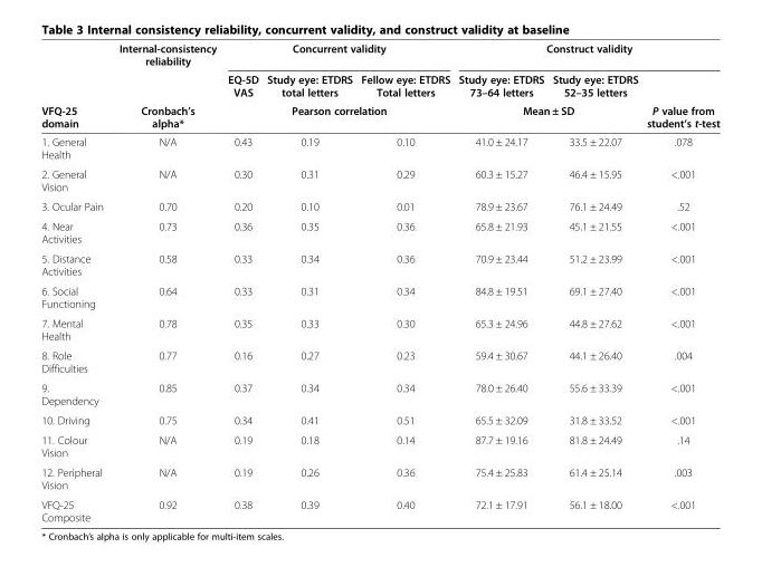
<table><thead><tr><td rowspan="3">VFQ-25 domain</td><td rowspan="3">Internal-consistency reliability Cronbach’s alpha*</td><td colspan="3">Concurrent validity</td><td colspan="3">Construct validity</td></tr><tr><td>EQ-5D VAS</td><td>Study eye: ETDRS total letters</td><td>Fellow eye: ETDRS Total letters</td><td>Study eye: ETDRS 73–64 letters</td><td>Study eye: ETDRS 52–35 letters</td><td rowspan="2">P value from student’s t-test</td></tr><tr><td colspan="3">Pearson correlation</td><td colspan="2">Mean ± SD</td></tr></thead><tbody><tr><td>1. General Health</td><td>N/A</td><td>0.43</td><td>0.19</td><td>0.10</td><td>41.0 ± 24.17</td><td>33.5 ± 22.07</td><td>.078</td></tr><tr><td>2. General Vision</td><td>N/A</td><td>0.30</td><td>0.31</td><td>0.29</td><td>60.3 ± 15.27</td><td>46.4 ± 15.95</td><td>&lt;.001</td></tr><tr><td>3. Ocular Pain</td><td>0.70</td><td>0.20</td><td>0.10</td><td>0.01</td><td>78.9 ± 23.67</td><td>76.1 ± 24.49</td><td>.52</td></tr><tr><td>4. Near Activities</td><td>0.73</td><td>0.36</td><td>0.35</td><td>0.36</td><td>65.8 ± 21.93</td><td>45.1 ± 21.55</td><td>&lt;.001</td></tr><tr><td>5. Distance Activities</td><td>0.58</td><td>0.33</td><td>0.34</td><td>0.36</td><td>70.9 ± 23.44</td><td>51.2 ± 23.99</td><td>&lt;.001</td></tr><tr><td>6. Social Functioning</td><td>0.64</td><td>0.33</td><td>0.31</td><td>0.34</td><td>84.8 ± 19.51</td><td>69.1 ± 27.40</td><td>&lt;.001</td></tr><tr><td>7. Mental Health</td><td>0.78</td><td>0.35</td><td>0.33</td><td>0.30</td><td>65.3 ± 24.96</td><td>44.8 ± 27.62</td><td>&lt;.001</td></tr><tr><td>8. Role Difficulties</td><td>0.77</td><td>0.16</td><td>0.27</td><td>0.23</td><td>59.4 ± 30.67</td><td>44.1 ± 26.40</td><td>.004</td></tr><tr><td>9. Dependency</td><td>0.85</td><td>0.37</td><td>0.34</td><td>0.34</td><td>78.0 ± 26.40</td><td>55.6 ± 33.39</td><td>&lt;.001</td></tr><tr><td>10. Driving</td><td>0.75</td><td>0.34</td><td>0.41</td><td>0.51</td><td>65.5 ± 32.09</td><td>31.8 ± 33.52</td><td>&lt;.001</td></tr><tr><td>11. Colour Vision</td><td>N/A</td><td>0.19</td><td>0.18</td><td>0.14</td><td>87.7 ± 19.16</td><td>81.8 ± 24.49</td><td>.14</td></tr><tr><td>12. Peripheral Vision</td><td>N/A</td><td>0.19</td><td>0.26</td><td>0.36</td><td>75.4 ± 25.83</td><td>61.4 ± 25.14</td><td>.003</td></tr><tr><td>VFQ-25 Composite</td><td>0.92</td><td>0.38</td><td>0.39</td><td>0.40</td><td>72.1 ± 17.91</td><td>56.1 ± 18.00</td><td>&lt;.001</td></tr></tbody></table>